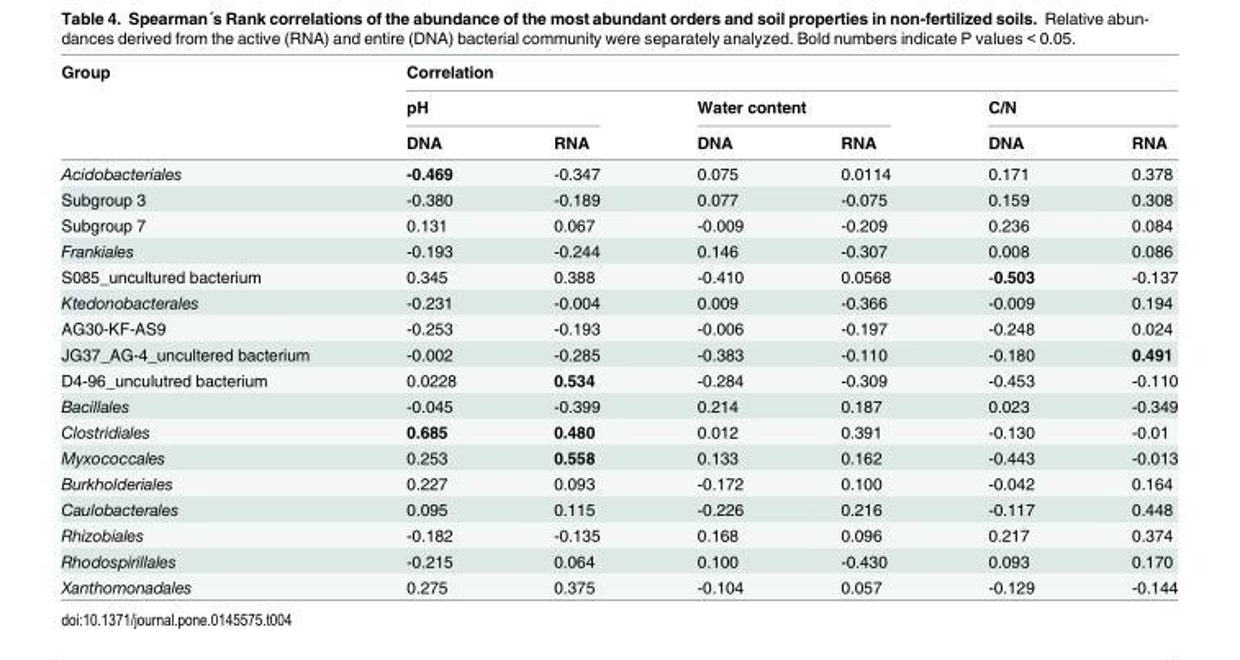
<table><thead><tr><td rowspan="3">Group</td><td colspan="6">Correlation</td></tr><tr><td colspan="2">pH</td><td colspan="2">Water content</td><td colspan="2">C/N</td></tr><tr><td>DNA</td><td>RNA</td><td>DNA</td><td>RNA</td><td>DNA</td><td>RNA</td></tr></thead><tbody><tr><td>Acidobacteriales</td><td>-0.469</td><td>-0.347</td><td>0.075</td><td>0.0114</td><td>0.171</td><td>0.378</td></tr><tr><td>Subgroup 3</td><td>-0.380</td><td>-0.189</td><td>0.077</td><td>-0.075</td><td>0.159</td><td>0.308</td></tr><tr><td>Subgroup 7</td><td>0.131</td><td>0.067</td><td>-0.009</td><td>-0.209</td><td>0.236</td><td>0.084</td></tr><tr><td>Frankiales</td><td>-0.193</td><td>-0.244</td><td>0.146</td><td>-0.307</td><td>0.008</td><td>0.086</td></tr><tr><td>S085_uncultured bacterium</td><td>0.345</td><td>0.388</td><td>-0.410</td><td>0.0568</td><td>-0.503</td><td>-0.137</td></tr><tr><td>Ktedonobacterales</td><td>-0.231</td><td>-0.004</td><td>0.009</td><td>-0.366</td><td>-0.009</td><td>0.194</td></tr><tr><td>AG30-KF-AS9</td><td>-0.253</td><td>-0.193</td><td>-0.006</td><td>-0.197</td><td>-0.248</td><td>0.024</td></tr><tr><td>JG37_AG-4_uncultered bacterium</td><td>-0.002</td><td>-0.285</td><td>-0.383</td><td>-0.110</td><td>-0.180</td><td>0.491</td></tr><tr><td>D4-96_unculutred bacterium</td><td>0.0228</td><td>0.534</td><td>-0.284</td><td>-0.309</td><td>-0.453</td><td>-0.110</td></tr><tr><td>Bacillales</td><td>-0.045</td><td>-0.399</td><td>0.214</td><td>0.187</td><td>0.023</td><td>-0.349</td></tr><tr><td>Clostridiales</td><td>0.685</td><td>0.480</td><td>0.012</td><td>0.391</td><td>-0.130</td><td>-0.01</td></tr><tr><td>Myxococcales</td><td>0.253</td><td>0.558</td><td>0.133</td><td>0.162</td><td>-0.443</td><td>-0.013</td></tr><tr><td>Burkholderiales</td><td>0.227</td><td>0.093</td><td>-0.172</td><td>0.100</td><td>-0.042</td><td>0.164</td></tr><tr><td>Caulobacterales</td><td>0.095</td><td>0.115</td><td>-0.226</td><td>0.216</td><td>-0.117</td><td>0.448</td></tr><tr><td>Rhizobiales</td><td>-0.182</td><td>-0.135</td><td>0.168</td><td>0.096</td><td>0.217</td><td>0.374</td></tr><tr><td>Rhodospirillales</td><td>-0.215</td><td>0.064</td><td>0.100</td><td>-0.430</td><td>0.093</td><td>0.170</td></tr><tr><td>Xanthomonadales</td><td>0.275</td><td>0.375</td><td>-0.104</td><td>0.057</td><td>-0.129</td><td>-0.144</td></tr></tbody></table>